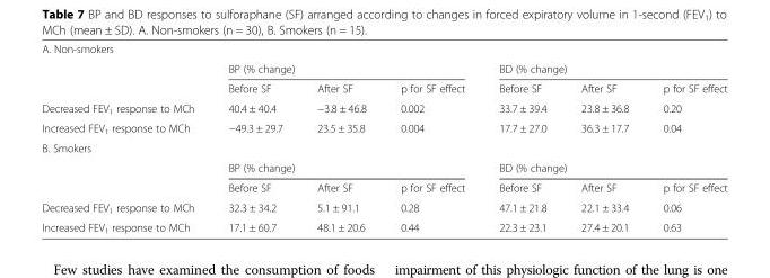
<table><tbody><tr><td colspan="7">A. Non-smokers</td></tr><tr><td></td><td colspan="3">BP (% change)</td><td colspan="3">BD (% change)</td></tr><tr><td></td><td>Before SF</td><td>After SF</td><td>p for SF effect</td><td>Before SF</td><td>After SF</td><td>p for SF effect</td></tr><tr><td>Decreased FEV<sub>1</sub> response to MCh</td><td>40.4 ± 40.4</td><td>−3.8 ± 46.8</td><td>0.002</td><td>33.7 ± 39.4</td><td>23.8 ± 36.8</td><td>0.20</td></tr><tr><td>Increased FEV<sub>1</sub> response to MCh</td><td>−49.3 ± 29.7</td><td>23.5 ± 35.8</td><td>0.004</td><td>17.7 ± 27.0</td><td>36.3 ± 17.7</td><td>0.04</td></tr><tr><td colspan="7">B. Smokers</td></tr><tr><td></td><td colspan="3">BP (% change)</td><td colspan="3">BD (% change)</td></tr><tr><td></td><td>Before SF</td><td>After SF</td><td>p for SF effect</td><td>Before SF</td><td>After SF</td><td>p for SF effect</td></tr><tr><td>Decreased FEV<sub>1</sub> response to MCh</td><td>32.3 ± 34.2</td><td>5.1 ± 91.1</td><td>0.28</td><td>47.1 ± 21.8</td><td>22.1 ± 33.4</td><td>0.06</td></tr><tr><td>Increased FEV<sub>1</sub> response to MCh</td><td>17.1 ± 60.7</td><td>48.1 ± 20.6</td><td>0.44</td><td>22.3 ± 23.1</td><td>27.4 ± 20.1</td><td>0.63</td></tr></tbody></table>